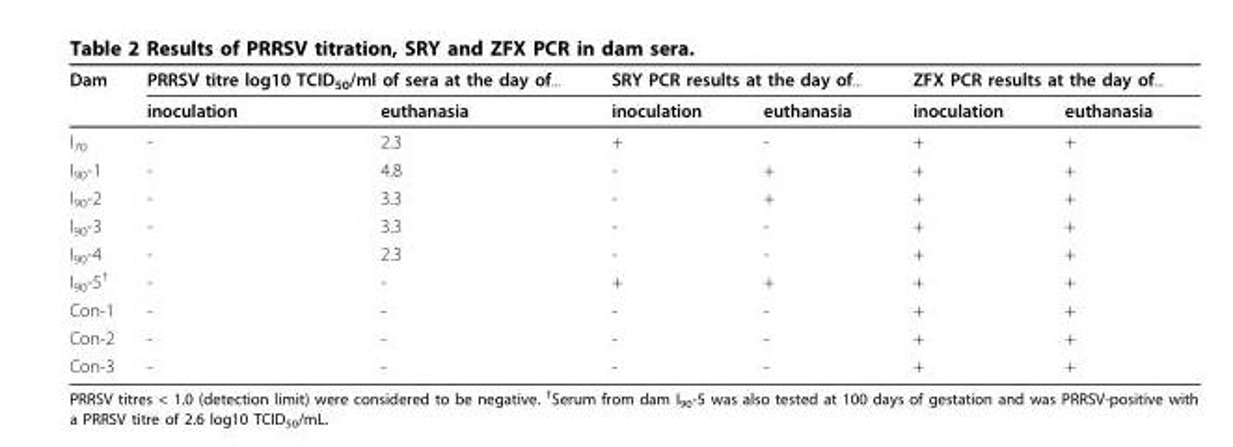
<table><thead><tr><td rowspan="2">Dam</td><td colspan="2">PRRSV titre log10 TCID<sub>50</sub>/ml of sera at the day of...</td><td colspan="2">SRY PCR results at the day of...</td><td colspan="2">ZFX PCR results at the day of...</td></tr><tr><td>inoculation</td><td>euthanasia</td><td>inoculation</td><td>euthanasia</td><td>inoculation</td><td>euthanasia</td></tr></thead><tbody><tr><td>I<sub>70</sub></td><td>-</td><td>2.3</td><td>+</td><td>-</td><td>+</td><td>+</td></tr><tr><td>I<sub>90</sub>-1</td><td>-</td><td>4.8</td><td>-</td><td>+</td><td>+</td><td>+</td></tr><tr><td>I<sub>90</sub>-2</td><td>-</td><td>3.3</td><td>-</td><td>+</td><td>+</td><td>+</td></tr><tr><td>I<sub>90</sub>-3</td><td>-</td><td>3.3</td><td>-</td><td>-</td><td>+</td><td>+</td></tr><tr><td>I<sub>90</sub>-4</td><td>-</td><td>2.3</td><td>-</td><td>-</td><td>+</td><td>+</td></tr><tr><td>I<sub>90</sub>-5<sup>†</sup></td><td>-</td><td>-</td><td>+</td><td>+</td><td>+</td><td>+</td></tr><tr><td>Con-1</td><td>-</td><td>-</td><td>-</td><td>-</td><td>+</td><td>+</td></tr><tr><td>Con-2</td><td>-</td><td>-</td><td>-</td><td>-</td><td>+</td><td>+</td></tr><tr><td>Con-3</td><td>-</td><td>-</td><td>-</td><td>-</td><td>+</td><td>+</td></tr></tbody></table>